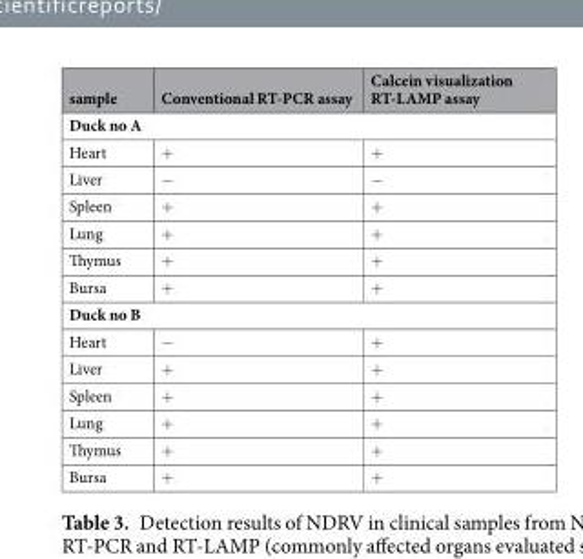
<table><thead><tr><td>sample</td><td>Conventional RT-PCR assay</td><td>Calcein visualization RT-LAMP assay</td></tr></thead><tbody><tr><td colspan="3">Duck no A</td></tr><tr><td>Heart</td><td>+</td><td>+</td></tr><tr><td>Liver</td><td>−</td><td>−</td></tr><tr><td>Spleen</td><td>+</td><td>+</td></tr><tr><td>Lung</td><td>+</td><td>+</td></tr><tr><td>Thymus</td><td>+</td><td>+</td></tr><tr><td>Bursa</td><td>+</td><td>+</td></tr><tr><td colspan="3">Duck no B</td></tr><tr><td>Heart</td><td>−</td><td>+</td></tr><tr><td>Liver</td><td>+</td><td>+</td></tr><tr><td>Spleen</td><td>+</td><td>+</td></tr><tr><td>Lung</td><td>+</td><td>+</td></tr><tr><td>Thymus</td><td>+</td><td>+</td></tr><tr><td>Bursa</td><td>+</td><td>+</td></tr></tbody></table>